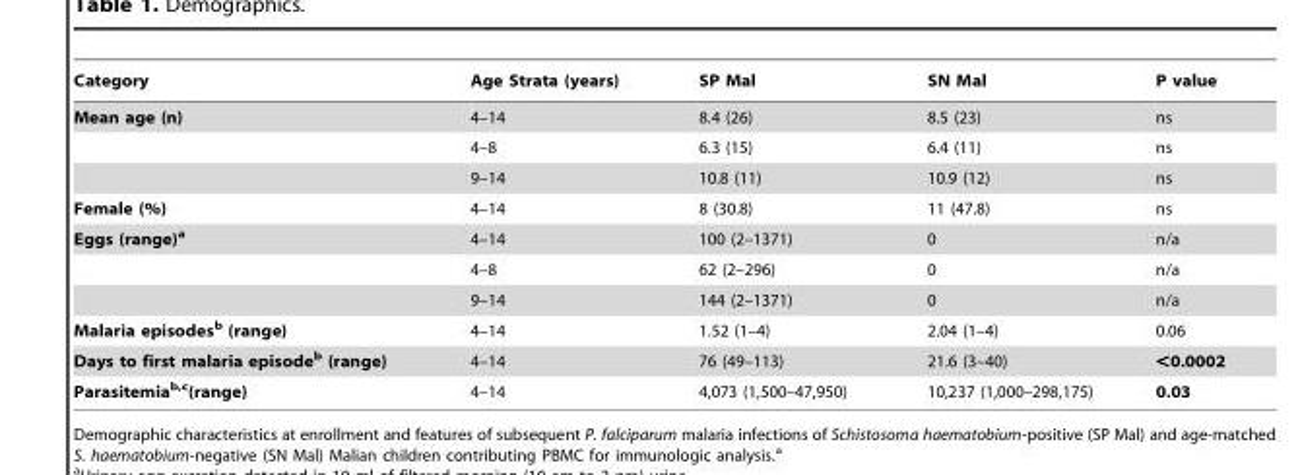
<table><thead><tr><td>Category</td><td>Age Strata (years)</td><td>SP Mal</td><td>SN Mal</td><td>P value</td></tr></thead><tbody><tr><td rowspan="3">Mean age (n)</td><td>4–14</td><td>8.4 (26)</td><td>8.5 (23)</td><td>ns</td></tr><tr><td>4–8</td><td>6.3 (15)</td><td>6.4 (11)</td><td>ns</td></tr><tr><td>9–14</td><td>10.8 (11)</td><td>10.9 (12)</td><td>ns</td></tr><tr><td>Female (%)</td><td>4–14</td><td>8 (30.8)</td><td>11 (47.8)</td><td>ns</td></tr><tr><td rowspan="3">Eggs (range)a</td><td>4–14</td><td>100 (2–1371)</td><td>0</td><td>n/a</td></tr><tr><td>4–8</td><td>62 (2–296)</td><td>0</td><td>n/a</td></tr><tr><td>9–14</td><td>144 (2–1371)</td><td>0</td><td>n/a</td></tr><tr><td>Malaria episodesb (range)</td><td>4–14</td><td>1.52 (1–4)</td><td>2.04 (1–4)</td><td>0.06</td></tr><tr><td>Days to first malaria episodeb (range)</td><td>4–14</td><td>76 (49–113)</td><td>21.6 (3–40)</td><td>&lt;0.0002</td></tr><tr><td>Parasitemiab<sup>,</sup>c(range)</td><td>4–14</td><td>4,073 (1,500–47,950)</td><td>10,237 (1,000–298,175)</td><td>0.03</td></tr></tbody></table>